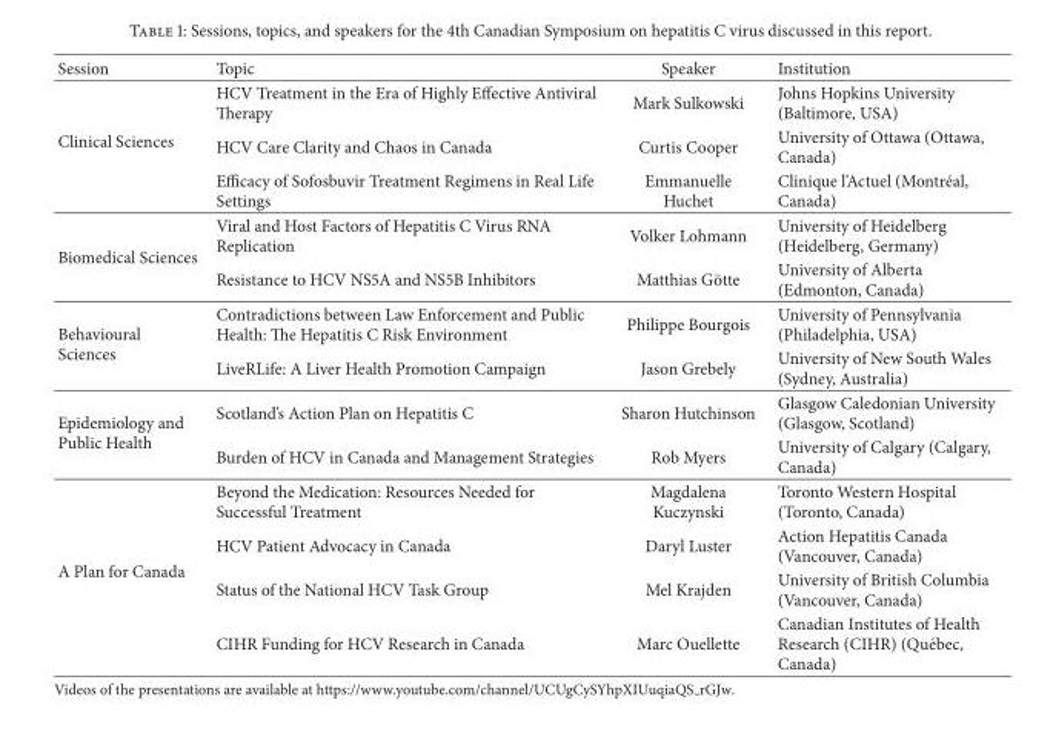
<table><thead><tr><td>Session</td><td>Topic</td><td>Speaker</td><td>Institution</td></tr></thead><tbody><tr><td rowspan="3">Clinical Sciences</td><td>HCV Treatment in the Era of Highly Effective Antiviral Therapy</td><td>Mark Sulkowski</td><td>Johns Hopkins University (Baltimore, USA)</td></tr><tr><td>HCV Care Clarity and Chaos in Canada</td><td>Curtis Cooper</td><td>University of Ottawa (Ottawa, Canada)</td></tr><tr><td>Efficacy of Sofosbuvir Treatment Regimens in Real Life Settings</td><td>Emmanuelle Huchet</td><td>Clinique l’Actuel (Montr´eal, Canada)</td></tr><tr><td rowspan="2">Biomedical Sciences</td><td>Viral and Host Factors of Hepatitis C Virus RNA Replication</td><td>Volker Lohmann</td><td>University of Heidelberg (Heidelberg, Germany)</td></tr><tr><td>Resistance to HCV NS5A and NS5B Inhibitors</td><td>Matthias G¨otte</td><td>University of Alberta (Edmonton, Canada)</td></tr><tr><td rowspan="2">Behavioural Sciences</td><td>Contradictions between Law Enforcement and Public Health: The Hepatitis C Risk Environment</td><td>Philippe Bourgois</td><td>University of Pennsylvania (Philadelphia, USA)</td></tr><tr><td>LiveRLife: A Liver Health Promotion Campaign</td><td>Jason Grebely</td><td>University of New South Wales (Sydney, Australia)</td></tr><tr><td rowspan="2">Epidemiology and Public Health</td><td>Scotland’s Action Plan on Hepatitis C</td><td>Sharon Hutchinson</td><td>Glasgow Caledonian University (Glasgow, Scotland)</td></tr><tr><td>Burden of HCV in Canada and Management Strategies</td><td>Rob Myers</td><td>University of Calgary (Calgary, Canada)</td></tr><tr><td rowspan="4">A Plan for Canada</td><td>Beyond the Medication: Resources Needed for Successful Treatment</td><td>Magdalena Kuczynski</td><td>Toronto Western Hospital (Toronto, Canada)</td></tr><tr><td>HCV Patient Advocacy in Canada</td><td>Daryl Luster</td><td>Action Hepatitis Canada (Vancouver, Canada)</td></tr><tr><td>Status of the National HCV Task Group</td><td>Mel Krajden</td><td>University of British Columbia (Vancouver, Canada)</td></tr><tr><td>CIHR Funding for HCV Research in Canada</td><td>Marc Ouellette</td><td>Canadian Institutes of Health Research (CIHR) (Qu´ebec, Canada)</td></tr></tbody></table>